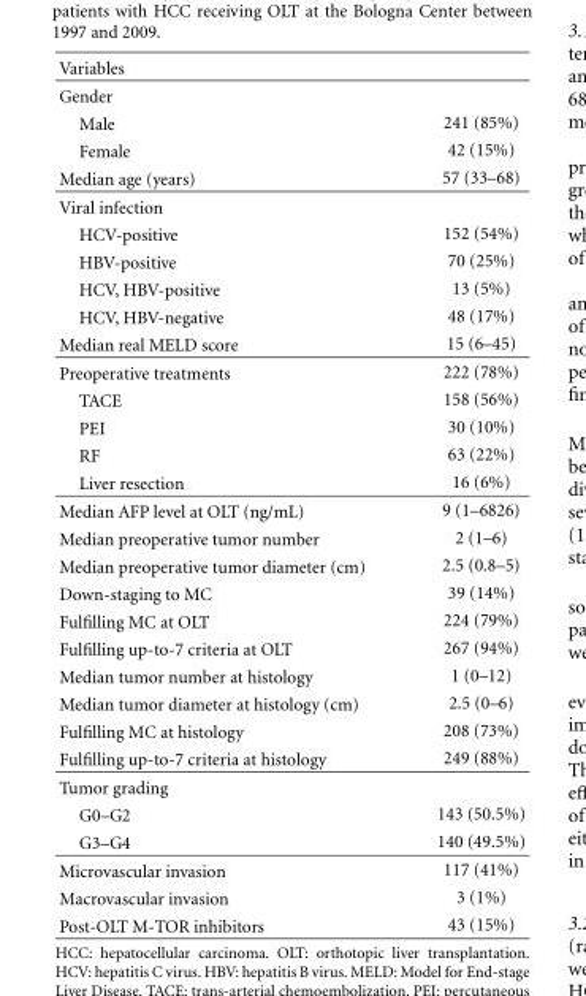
<table><thead><tr><td>Variables</td><td></td></tr></thead><tbody><tr><td colspan="2">Gender</td></tr><tr><td>Male</td><td>241 (85%)</td></tr><tr><td>Female</td><td>42 (15%)</td></tr><tr><td>Median age (years)</td><td>57 (33–68)</td></tr><tr><td colspan="2">Viral infection</td></tr><tr><td>HCV-positive</td><td>152 (54%)</td></tr><tr><td>HBV-positive</td><td>70 (25%)</td></tr><tr><td>HCV, HBV-positive</td><td>13 (5%)</td></tr><tr><td>HCV, HBV-negative</td><td>48 (17%)</td></tr><tr><td>Median real MELD score</td><td>15 (6–45)</td></tr><tr><td>Preoperative treatments</td><td>222 (78%)</td></tr><tr><td>TACE</td><td>158 (56%)</td></tr><tr><td>PEI</td><td>30 (10%)</td></tr><tr><td>RF</td><td>63 (22%)</td></tr><tr><td>Liver resection</td><td>16 (6%)</td></tr><tr><td>Median AFP level at OLT (ng/mL)</td><td>9 (1–6826)</td></tr><tr><td>Median preoperative tumor number</td><td>2 (1–6)</td></tr><tr><td>Median preoperative tumor diameter (cm)</td><td>2.5 (0.8–5)</td></tr><tr><td>Down-staging to MC</td><td>39 (14%)</td></tr><tr><td>Fulfilling MC at OLT</td><td>224 (79%)</td></tr><tr><td>Fulfilling up-to-7 criteria at OLT</td><td>267 (94%)</td></tr><tr><td>Median tumor number at histology</td><td>1 (0–12)</td></tr><tr><td>Median tumor diameter at histology (cm)</td><td>2.5 (0–6)</td></tr><tr><td>Fulfilling MC at histology</td><td>208 (73%)</td></tr><tr><td>Fulfilling up-to-7 criteria at histology</td><td>249 (88%)</td></tr><tr><td colspan="2">Tumor grading</td></tr><tr><td>G0–G2</td><td>143 (50.5%)</td></tr><tr><td>G3–G4</td><td>140 (49.5%)</td></tr><tr><td>Microvascular invasion</td><td>117 (41%)</td></tr><tr><td>Macrovascular invasion</td><td>3 (1%)</td></tr><tr><td>Post-OLT M-TOR inhibitors</td><td>43 (15%)</td></tr></tbody></table>